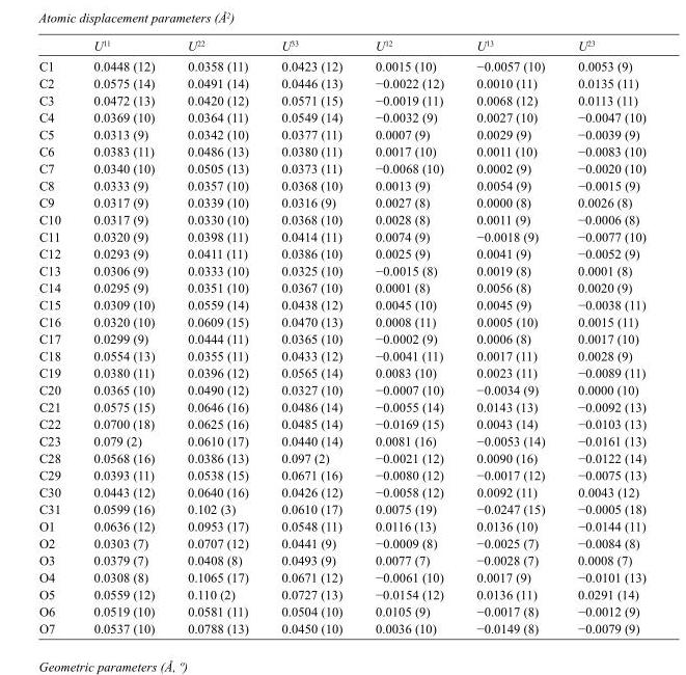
<table><thead><tr><td></td><td>U<sup>11</sup></td><td>U<sup>22</sup></td><td>U<sup>33</sup></td><td>U<sup>12</sup></td><td>U<sup>13</sup></td><td>U<sup>23</sup></td></tr></thead><tbody><tr><td>C1</td><td>0.0448 (12)</td><td>0.0358 (11)</td><td>0.0423 (12)</td><td>0.0015 (10)</td><td>−0.0057 (10)</td><td>0.0053 (9)</td></tr><tr><td>C2</td><td>0.0575 (14)</td><td>0.0491 (14)</td><td>0.0446 (13)</td><td>−0.0022 (12)</td><td>0.0010 (11)</td><td>0.0135 (11)</td></tr><tr><td>C3</td><td>0.0472 (13)</td><td>0.0420 (12)</td><td>0.0571 (15)</td><td>−0.0019 (11)</td><td>0.0068 (12)</td><td>0.0113 (11)</td></tr><tr><td>C4</td><td>0.0369 (10)</td><td>0.0364 (11)</td><td>0.0549 (14)</td><td>−0.0032 (9)</td><td>0.0027 (10)</td><td>−0.0047 (10)</td></tr><tr><td>C5</td><td>0.0313 (9)</td><td>0.0342 (10)</td><td>0.0377 (11)</td><td>0.0007 (9)</td><td>0.0029 (9)</td><td>−0.0039 (9)</td></tr><tr><td>C6</td><td>0.0383 (11)</td><td>0.0486 (13)</td><td>0.0380 (11)</td><td>0.0017 (10)</td><td>0.0011 (10)</td><td>−0.0083 (10)</td></tr><tr><td>C7</td><td>0.0340 (10)</td><td>0.0505 (13)</td><td>0.0373 (11)</td><td>−0.0068 (10)</td><td>0.0002 (9)</td><td>−0.0020 (10)</td></tr><tr><td>C8</td><td>0.0333 (9)</td><td>0.0357 (10)</td><td>0.0368 (10)</td><td>0.0013 (9)</td><td>0.0054 (9)</td><td>−0.0015 (9)</td></tr><tr><td>C9</td><td>0.0317 (9)</td><td>0.0339 (10)</td><td>0.0316 (9)</td><td>0.0027 (8)</td><td>0.0000 (8)</td><td>0.0026 (8)</td></tr><tr><td>C10</td><td>0.0317 (9)</td><td>0.0330 (10)</td><td>0.0368 (10)</td><td>0.0028 (8)</td><td>0.0011 (9)</td><td>−0.0006 (8)</td></tr><tr><td>C11</td><td>0.0320 (9)</td><td>0.0398 (11)</td><td>0.0414 (11)</td><td>0.0074 (9)</td><td>−0.0018 (9)</td><td>−0.0077 (10)</td></tr><tr><td>C12</td><td>0.0293 (9)</td><td>0.0411 (11)</td><td>0.0386 (10)</td><td>0.0025 (9)</td><td>0.0041 (9)</td><td>−0.0052 (9)</td></tr><tr><td>C13</td><td>0.0306 (9)</td><td>0.0333 (10)</td><td>0.0325 (10)</td><td>−0.0015 (8)</td><td>0.0019 (8)</td><td>0.0001 (8)</td></tr><tr><td>C14</td><td>0.0295 (9)</td><td>0.0351 (10)</td><td>0.0367 (10)</td><td>0.0001 (8)</td><td>0.0056 (8)</td><td>0.0020 (9)</td></tr><tr><td>C15</td><td>0.0309 (10)</td><td>0.0559 (14)</td><td>0.0438 (12)</td><td>0.0045 (10)</td><td>0.0045 (9)</td><td>−0.0038 (11)</td></tr><tr><td>C16</td><td>0.0320 (10)</td><td>0.0609 (15)</td><td>0.0470 (13)</td><td>0.0008 (11)</td><td>0.0005 (10)</td><td>0.0015 (11)</td></tr><tr><td>C17</td><td>0.0299 (9)</td><td>0.0444 (11)</td><td>0.0365 (10)</td><td>−0.0002 (9)</td><td>0.0006 (8)</td><td>0.0017 (10)</td></tr><tr><td>C18</td><td>0.0554 (13)</td><td>0.0355 (11)</td><td>0.0433 (12)</td><td>−0.0041 (11)</td><td>0.0017 (11)</td><td>0.0028 (9)</td></tr><tr><td>C19</td><td>0.0380 (11)</td><td>0.0396 (12)</td><td>0.0565 (14)</td><td>0.0083 (10)</td><td>0.0023 (11)</td><td>−0.0089 (11)</td></tr><tr><td>C20</td><td>0.0365 (10)</td><td>0.0490 (12)</td><td>0.0327 (10)</td><td>−0.0007 (10)</td><td>−0.0034 (9)</td><td>0.0000 (10)</td></tr><tr><td>C21</td><td>0.0575 (15)</td><td>0.0646 (16)</td><td>0.0486 (14)</td><td>−0.0055 (14)</td><td>0.0143 (13)</td><td>−0.0092 (13)</td></tr><tr><td>C22</td><td>0.0700 (18)</td><td>0.0625 (16)</td><td>0.0485 (14)</td><td>−0.0169 (15)</td><td>0.0043 (14)</td><td>−0.0103 (13)</td></tr><tr><td>C23</td><td>0.079 (2)</td><td>0.0610 (17)</td><td>0.0440 (14)</td><td>0.0081 (16)</td><td>−0.0053 (14)</td><td>−0.0161 (13)</td></tr><tr><td>C28</td><td>0.0568 (16)</td><td>0.0386 (13)</td><td>0.097 (2)</td><td>−0.0021 (12)</td><td>0.0090 (16)</td><td>−0.0122 (14)</td></tr><tr><td>C29</td><td>0.0393 (11)</td><td>0.0538 (15)</td><td>0.0671 (16)</td><td>−0.0080 (12)</td><td>−0.0017 (12)</td><td>−0.0075 (13)</td></tr><tr><td>C30</td><td>0.0443 (12)</td><td>0.0640 (16)</td><td>0.0426 (12)</td><td>−0.0058 (12)</td><td>0.0092 (11)</td><td>0.0043 (12)</td></tr><tr><td>C31</td><td>0.0599 (16)</td><td>0.102 (3)</td><td>0.0610 (17)</td><td>0.0075 (19)</td><td>−0.0247 (15)</td><td>−0.0005 (18)</td></tr><tr><td>O1</td><td>0.0636 (12)</td><td>0.0953 (17)</td><td>0.0548 (11)</td><td>0.0116 (13)</td><td>0.0136 (10)</td><td>−0.0144 (11)</td></tr><tr><td>O2</td><td>0.0303 (7)</td><td>0.0707 (12)</td><td>0.0441 (9)</td><td>−0.0009 (8)</td><td>−0.0025 (7)</td><td>−0.0084 (8)</td></tr><tr><td>O3</td><td>0.0379 (7)</td><td>0.0408 (8)</td><td>0.0493 (9)</td><td>0.0077 (7)</td><td>−0.0028 (7)</td><td>0.0008 (7)</td></tr><tr><td>O4</td><td>0.0308 (8)</td><td>0.1065 (17)</td><td>0.0671 (12)</td><td>−0.0061 (10)</td><td>0.0017 (9)</td><td>−0.0101 (13)</td></tr><tr><td>O5</td><td>0.0559 (12)</td><td>0.110 (2)</td><td>0.0727 (13)</td><td>−0.0154 (12)</td><td>0.0136 (11)</td><td>0.0291 (14)</td></tr><tr><td>O6</td><td>0.0519 (10)</td><td>0.0581 (11)</td><td>0.0504 (10)</td><td>0.0105 (9)</td><td>−0.0017 (8)</td><td>−0.0012 (9)</td></tr><tr><td>O7</td><td>0.0537 (10)</td><td>0.0788 (13)</td><td>0.0450 (10)</td><td>0.0036 (10)</td><td>−0.0149 (8)</td><td>−0.0079 (9)</td></tr></tbody></table>